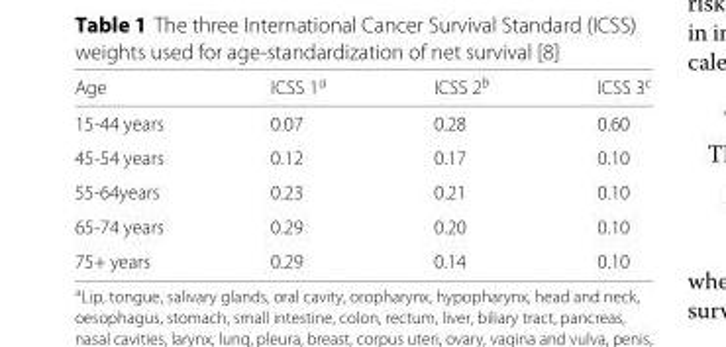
<table><thead><tr><td>Age</td><td>ICSS 1<sup>a</sup></td><td>ICSS 2<sup>b</sup></td><td>ICSS 3<sup>c</sup></td></tr></thead><tbody><tr><td>15-44 years</td><td>0.07</td><td>0.28</td><td>0.60</td></tr><tr><td>45-54 years</td><td>0.12</td><td>0.17</td><td>0.10</td></tr><tr><td>55-64years</td><td>0.23</td><td>0.21</td><td>0.10</td></tr><tr><td>65-74 years</td><td>0.29</td><td>0.20</td><td>0.10</td></tr><tr><td>75+ years</td><td>0.29</td><td>0.14</td><td>0.10</td></tr></tbody></table>